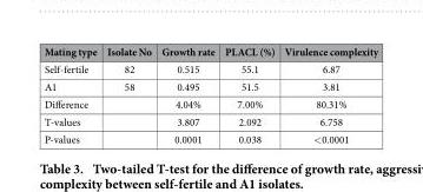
<table><thead><tr><td>Mating type</td><td>Isolate No</td><td>Growth rate</td><td>PLACL (%)</td><td>Virulence complexity</td></tr></thead><tbody><tr><td>Self-fertile</td><td>82</td><td>0.515</td><td>55.1</td><td>6.87</td></tr><tr><td>A1</td><td>58</td><td>0.495</td><td>51.5</td><td>3.81</td></tr><tr><td>Difference</td><td></td><td>4.04%</td><td>7.00%</td><td>80.31%</td></tr><tr><td>T-values</td><td></td><td>3.807</td><td>2.092</td><td>6.758</td></tr><tr><td>P-values</td><td></td><td>0.0001</td><td>0.038</td><td>&lt; 0.0001</td></tr></tbody></table>